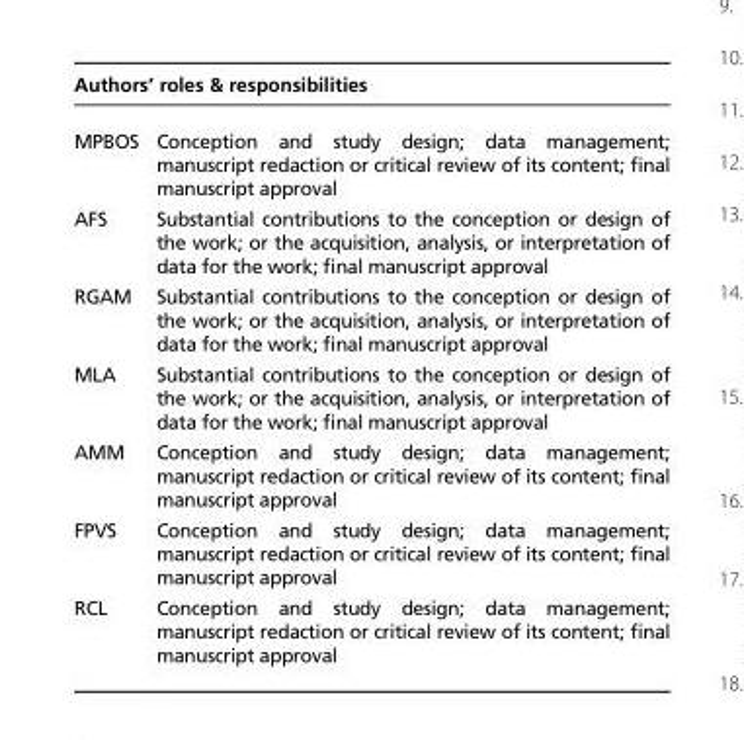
<table><thead><tr><td colspan="2">Authors’ roles &amp; responsibilities</td></tr><tr><td>MPBOS</td><td>Conception and study design; data management; manuscript redaction or critical review of its content; final manuscript approval</td></tr></thead><tbody><tr><td>AFS</td><td>Substantial contributions to the conception or design of the work; or the acquisition, analysis, or interpretation of data for the work; final manuscript approval</td></tr><tr><td>RGAM</td><td>Substantial contributions to the conception or design of the work; or the acquisition, analysis, or interpretation of data for the work; final manuscript approval</td></tr><tr><td>MLA</td><td>Substantial contributions to the conception or design of the work; or the acquisition, analysis, or interpretation of data for the work; final manuscript approval</td></tr><tr><td>AMM</td><td>Conception and study design; data management; manuscript redaction or critical review of its content; final manuscript approval</td></tr><tr><td>FPVS</td><td>Conception and study design; data management; manuscript redaction or critical review of its content; final manuscript approval</td></tr><tr><td>RCL</td><td>Conception and study design; data management; manuscript redaction or critical review of its content; final manuscript approval</td></tr></tbody></table>